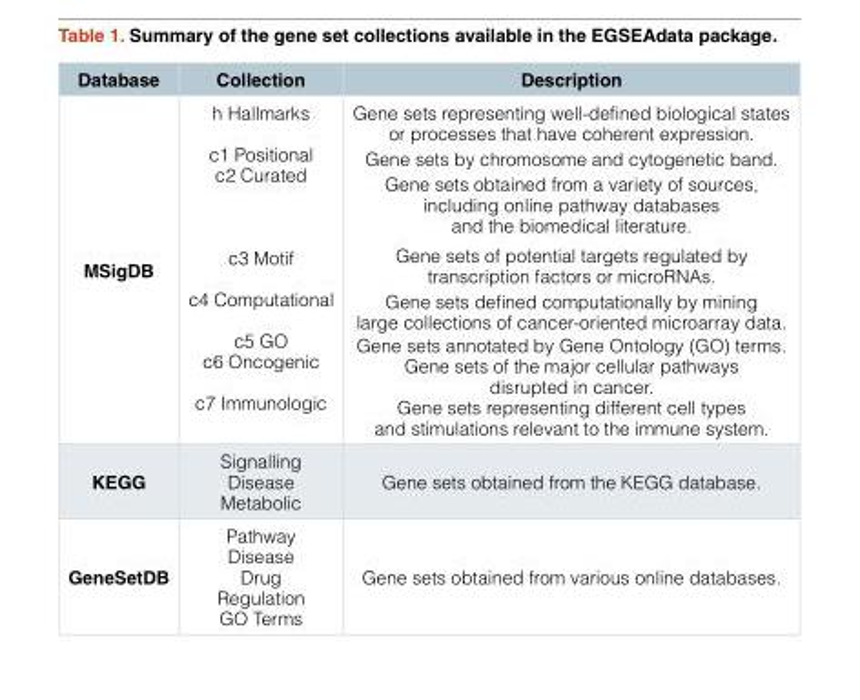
<table><thead><tr><td>Database</td><td>Collection</td><td>Description</td></tr></thead><tbody><tr><td>MSigDB</td><td>h Hallmarks c1 Positional c2 Curated c3 Motif c4 Computational c5 GO c6 Oncogenic c7 Immunologic</td><td>Gene sets representing well-defined biological states or processes that have coherent expression. Gene sets by chromosome and cytogenetic band. Gene sets obtained from a variety of sources, including online pathway databases and the biomedical literature. Gene sets of potential targets regulated by transcription factors or microRNAs. Gene sets defined computationally by mining large collections of cancer-oriented microarray data. Gene sets annotated by Gene Ontology (GO) terms. Gene sets of the major cellular pathways disrupted in cancer. Gene sets representing different cell types and stimulations relevant to the immune system.</td></tr><tr><td>KEGG</td><td>Signalling Disease Metabolic</td><td>Gene sets obtained from the KEGG database.</td></tr><tr><td>GeneSetDB</td><td>Pathway Disease Drug Regulation GO Terms</td><td>Gene sets obtained from various online databases.</td></tr></tbody></table>